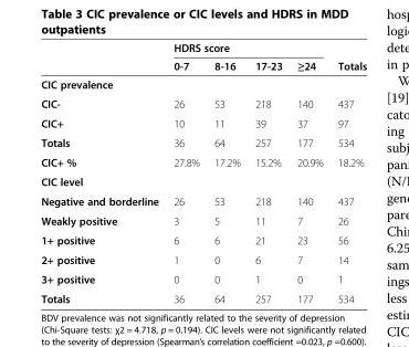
<table><thead><tr><td rowspan="2"></td><td colspan="4">HDRS score</td><td rowspan="2">Totals</td></tr><tr><td>0-7</td><td>8-16</td><td>17-23</td><td>≥24</td></tr></thead><tbody><tr><td colspan="6">CIC prevalence</td></tr><tr><td>CIC-</td><td>26</td><td>53</td><td>218</td><td>140</td><td>437</td></tr><tr><td>CIC+</td><td>10</td><td>11</td><td>39</td><td>37</td><td>97</td></tr><tr><td>Totals</td><td>36</td><td>64</td><td>257</td><td>177</td><td>534</td></tr><tr><td>CIC+ %</td><td>27.8%</td><td>17.2%</td><td>15.2%</td><td>20.9%</td><td>18.2%</td></tr><tr><td colspan="6">CIC level</td></tr><tr><td>Negative and borderline</td><td>26</td><td>53</td><td>218</td><td>140</td><td>437</td></tr><tr><td>Weakly positive</td><td>3</td><td>5</td><td>11</td><td>7</td><td>26</td></tr><tr><td>1+ positive</td><td>6</td><td>6</td><td>21</td><td>23</td><td>56</td></tr><tr><td>2+ positive</td><td>1</td><td>0</td><td>6</td><td>7</td><td>14</td></tr><tr><td>3+ positive</td><td>0</td><td>0</td><td>1</td><td>0</td><td>1</td></tr><tr><td>Totals</td><td>36</td><td>64</td><td>257</td><td>177</td><td>534</td></tr></tbody></table>